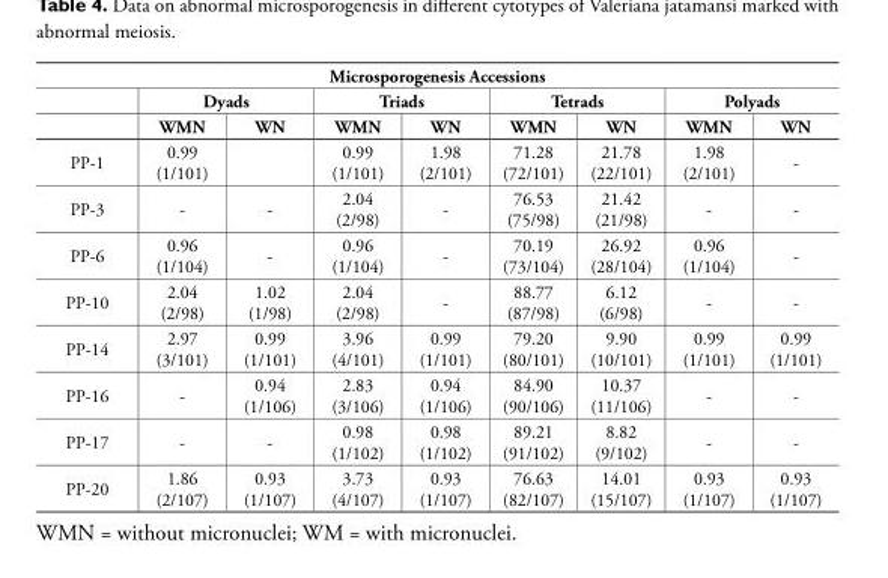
<table><thead><tr><td colspan="9">Microsporogenesis Accessions</td></tr><tr><td rowspan="2"></td><td colspan="2">Dyads</td><td colspan="2">Triads</td><td colspan="2">Tetrads</td><td colspan="2">Polyads</td></tr><tr><td>WMN</td><td>WN</td><td>WMN</td><td>WN</td><td>WMN</td><td>WN</td><td>WMN</td><td>WN</td></tr></thead><tbody><tr><td>PP-1</td><td>0.99 (1/101)</td><td></td><td>0.99 (1/101)</td><td>1.98 (2/101)</td><td>71.28 (72/101)</td><td>21.78 (22/101)</td><td>1.98 (2/101)</td><td>-</td></tr><tr><td>PP-3</td><td>-</td><td>-</td><td>2.04 (2/98)</td><td>-</td><td>76.53 (75/98)</td><td>21.42 (21/98)</td><td>-</td><td>-</td></tr><tr><td>PP-6</td><td>0.96 (1/104)</td><td>-</td><td>0.96 (1/104)</td><td>-</td><td>70.19 (73/104)</td><td>26.92 (28/104)</td><td>0.96 (1/104)</td><td>-</td></tr><tr><td>PP-10</td><td>2.04 (2/98)</td><td>1.02 (1/98)</td><td>2.04 (2/98)</td><td>-</td><td>88.77 (87/98)</td><td>6.12 (6/98)</td><td>-</td><td>-</td></tr><tr><td>PP-14</td><td>2.97 (3/101)</td><td>0.99 (1/101)</td><td>3.96 (4/101)</td><td>0.99 (1/101)</td><td>79.20 (80/101)</td><td>9.90 (10/101)</td><td>0.99 (1/101)</td><td>0.99 (1/101)</td></tr><tr><td>PP-16</td><td>-</td><td>0.94 (1/106)</td><td>2.83 (3/106)</td><td>0.94 (1/106)</td><td>84.90 (90/106)</td><td>10.37 (11/106)</td><td>-</td><td>-</td></tr><tr><td>PP-17</td><td>-</td><td>-</td><td>0.98 (1/102)</td><td>0.98 (1/102)</td><td>89.21 (91/102)</td><td>8.82 (9/102)</td><td>-</td><td>-</td></tr><tr><td>PP-20</td><td>1.86 (2/107)</td><td>0.93 (1/107)</td><td>3.73 (4/107)</td><td>0.93 (1/107)</td><td>76.63 (82/107)</td><td>14.01 (15/107)</td><td>0.93 (1/107)</td><td>0.93 (1/107)</td></tr></tbody></table>